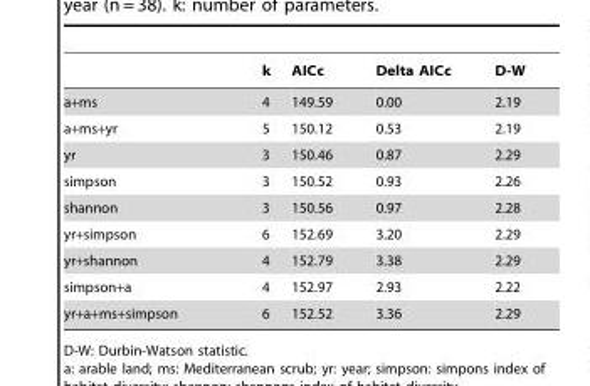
<table><thead><tr><td></td><td>k</td><td>AICc</td><td>Delta AICc</td><td>D-W</td></tr></thead><tbody><tr><td>a+ms</td><td>4</td><td>149.59</td><td>0.00</td><td>2.19</td></tr><tr><td>a+ms+yr</td><td>5</td><td>150.12</td><td>0.53</td><td>2.19</td></tr><tr><td>yr</td><td>3</td><td>150.46</td><td>0.87</td><td>2.29</td></tr><tr><td>simpson</td><td>3</td><td>150.52</td><td>0.93</td><td>2.26</td></tr><tr><td>shannon</td><td>3</td><td>150.56</td><td>0.97</td><td>2.28</td></tr><tr><td>yr+simpson</td><td>6</td><td>152.69</td><td>3.20</td><td>2.29</td></tr><tr><td>yr+shannon</td><td>4</td><td>152.79</td><td>3.38</td><td>2.29</td></tr><tr><td>simpson+a</td><td>4</td><td>152.97</td><td>2.93</td><td>2.22</td></tr><tr><td>yr+a+ms+simpson</td><td>6</td><td>152.52</td><td>3.36</td><td>2.29</td></tr></tbody></table>